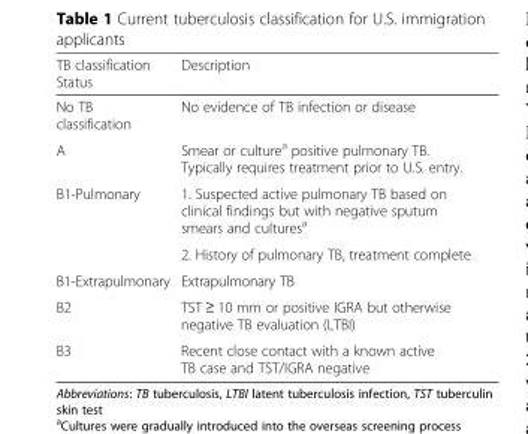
<table><thead><tr><td>TB classification Status</td><td>Description</td></tr></thead><tbody><tr><td>No TB classification</td><td>No evidence of TB infection or disease</td></tr><tr><td>A</td><td>Smear or culture<sup>a</sup> positive pulmonary TB. Typically requires treatment prior to U.S. entry.</td></tr><tr><td rowspan="2">B1-Pulmonary</td><td>1. Suspected active pulmonary TB based on clinical findings but with negative sputum smears and cultures<sup>a</sup></td></tr><tr><td>2. History of pulmonary TB, treatment complete</td></tr><tr><td>B1-Extrapulmonary</td><td>Extrapulmonary TB</td></tr><tr><td>B2</td><td>TST ≥ 10 mm or positive IGRA but otherwise negative TB evaluation (LTBI)</td></tr><tr><td>B3</td><td>Recent close contact with a known active TB case and TST/IGRA negative</td></tr></tbody></table>